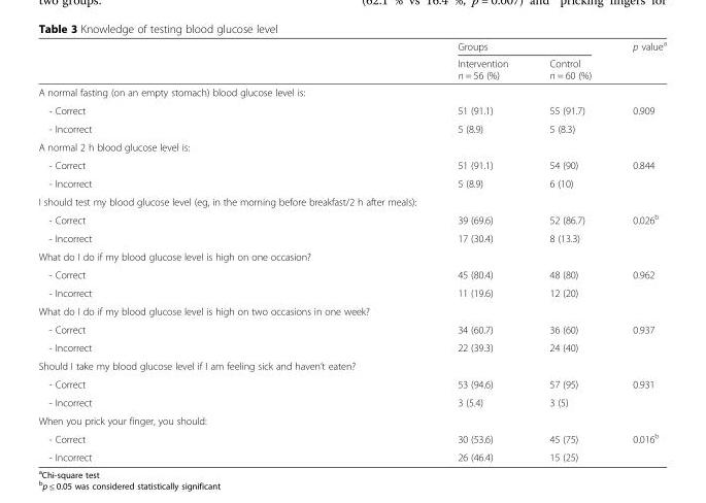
<table><thead><tr><td rowspan="2"></td><td colspan="2">Groups</td><td rowspan="2">p value<sup>a</sup></td></tr><tr><td>Intervention n = 56 (%)</td><td>Control n = 60 (%)</td></tr></thead><tbody><tr><td colspan="4">A normal fasting (on an empty stomach) blood glucose level is:</td></tr><tr><td>- Correct</td><td>51 (91.1)</td><td>55 (91.7)</td><td>0.909</td></tr><tr><td>- Incorrect</td><td>5 (8.9)</td><td>5 (8.3)</td><td></td></tr><tr><td colspan="4">A normal 2 h blood glucose level is:</td></tr><tr><td>- Correct</td><td>51 (91.1)</td><td>54 (90)</td><td>0.844</td></tr><tr><td>- Incorrect</td><td>5 (8.9)</td><td>6 (10)</td><td></td></tr><tr><td colspan="4">I should test my blood glucose level (eg, in the morning before breakfast/2 h after meals):</td></tr><tr><td>- Correct</td><td>39 (69.6)</td><td>52 (86.7)</td><td>0.026<sup>b</sup></td></tr><tr><td>- Incorrect</td><td>17 (30.4)</td><td>8 (13.3)</td><td></td></tr><tr><td colspan="4">What do I do if my blood glucose level is high on one occasion?</td></tr><tr><td>- Correct</td><td>45 (80.4)</td><td>48 (80)</td><td>0.962</td></tr><tr><td>- Incorrect</td><td>11 (19.6)</td><td>12 (20)</td><td></td></tr><tr><td colspan="4">What do I do if my blood glucose level is high on two occasions in one week?</td></tr><tr><td>- Correct</td><td>34 (60.7)</td><td>36 (60)</td><td>0.937</td></tr><tr><td>- Incorrect</td><td>22 (39.3)</td><td>24 (40)</td><td></td></tr><tr><td colspan="4">Should I take my blood glucose level if I am feeling sick and haven’t eaten?</td></tr><tr><td>- Correct</td><td>53 (94.6)</td><td>57 (95)</td><td>0.931</td></tr><tr><td>- Incorrect</td><td>3 (5.4)</td><td>3 (5)</td><td></td></tr><tr><td colspan="4">When you prick your finger, you should:</td></tr><tr><td>- Correct</td><td>30 (53.6)</td><td>45 (75)</td><td>0.016<sup>b</sup></td></tr><tr><td>- Incorrect</td><td>26 (46.4)</td><td>15 (25)</td><td></td></tr></tbody></table>